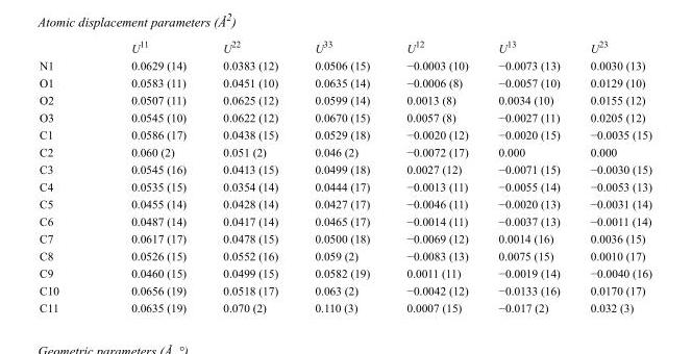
<table><thead><tr><td></td><td>U<sup>11</sup></td><td>U<sup>22</sup></td><td>U<sup>33</sup></td><td>U<sup>12</sup></td><td>U<sup>13</sup></td><td>U<sup>23</sup></td></tr></thead><tbody><tr><td>N1</td><td>0.0629 (14)</td><td>0.0383 (12)</td><td>0.0506 (15)</td><td>−0.0003 (10)</td><td>−0.0073 (13)</td><td>0.0030 (13)</td></tr><tr><td>O1</td><td>0.0583 (11)</td><td>0.0451 (10)</td><td>0.0635 (14)</td><td>−0.0006 (8)</td><td>−0.0057 (10)</td><td>0.0129 (10)</td></tr><tr><td>O2</td><td>0.0507 (11)</td><td>0.0625 (12)</td><td>0.0599 (14)</td><td>0.0013 (8)</td><td>0.0034 (10)</td><td>0.0155 (12)</td></tr><tr><td>O3</td><td>0.0545 (10)</td><td>0.0622 (12)</td><td>0.0670 (15)</td><td>0.0057 (8)</td><td>−0.0027 (11)</td><td>0.0205 (12)</td></tr><tr><td>C1</td><td>0.0586 (17)</td><td>0.0438 (15)</td><td>0.0529 (18)</td><td>−0.0020 (12)</td><td>−0.0020 (15)</td><td>−0.0035 (15)</td></tr><tr><td>C2</td><td>0.060 (2)</td><td>0.051 (2)</td><td>0.046 (2)</td><td>−0.0072 (17)</td><td>0.000</td><td>0.000</td></tr><tr><td>C3</td><td>0.0545 (16)</td><td>0.0413 (15)</td><td>0.0499 (18)</td><td>0.0027 (12)</td><td>−0.0071 (15)</td><td>−0.0030 (15)</td></tr><tr><td>C4</td><td>0.0535 (15)</td><td>0.0354 (14)</td><td>0.0444 (17)</td><td>−0.0013 (11)</td><td>−0.0055 (14)</td><td>−0.0053 (13)</td></tr><tr><td>C5</td><td>0.0455 (14)</td><td>0.0428 (14)</td><td>0.0427 (17)</td><td>−0.0046 (11)</td><td>−0.0020 (13)</td><td>−0.0031 (14)</td></tr><tr><td>C6</td><td>0.0487 (14)</td><td>0.0417 (14)</td><td>0.0465 (17)</td><td>−0.0014 (11)</td><td>−0.0037 (13)</td><td>−0.0011 (14)</td></tr><tr><td>C7</td><td>0.0617 (17)</td><td>0.0478 (15)</td><td>0.0500 (18)</td><td>−0.0069 (12)</td><td>0.0014 (16)</td><td>0.0036 (15)</td></tr><tr><td>C8</td><td>0.0526 (15)</td><td>0.0552 (16)</td><td>0.059 (2)</td><td>−0.0083 (13)</td><td>0.0075 (15)</td><td>0.0010 (17)</td></tr><tr><td>C9</td><td>0.0460 (15)</td><td>0.0499 (15)</td><td>0.0582 (19)</td><td>0.0011 (11)</td><td>−0.0019 (14)</td><td>−0.0040 (16)</td></tr><tr><td>C10</td><td>0.0656 (19)</td><td>0.0518 (17)</td><td>0.063 (2)</td><td>−0.0042 (12)</td><td>−0.0133 (16)</td><td>0.0170 (17)</td></tr><tr><td>C11</td><td>0.0635 (19)</td><td>0.070 (2)</td><td>0.110 (3)</td><td>0.0007 (15)</td><td>−0.017 (2)</td><td>0.032 (3)</td></tr></tbody></table>